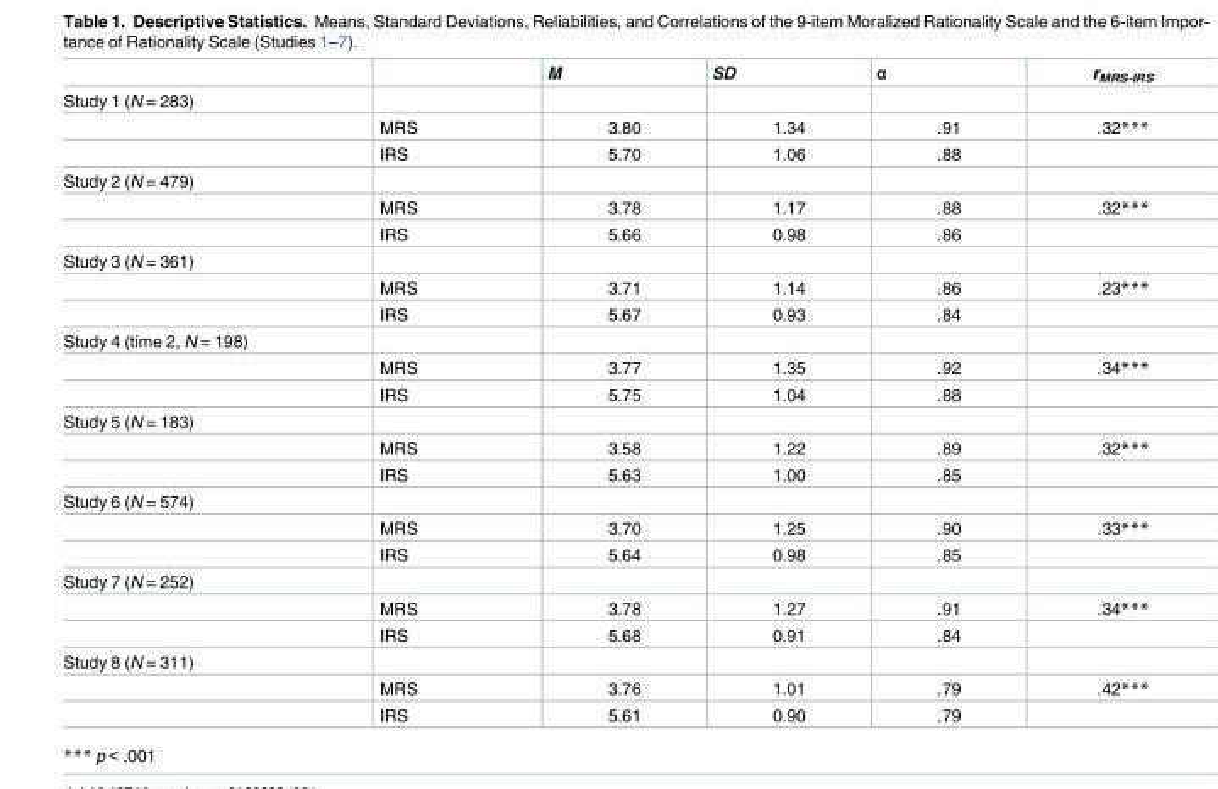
<table><thead><tr><td></td><td></td><td>M</td><td>SD</td><td>α</td><td>r<sub>MRS-IRS</sub></td></tr></thead><tbody><tr><td colspan="6">Study 1 (N = 283)</td></tr><tr><td></td><td>MRS</td><td>3.80</td><td>1.34</td><td>.91</td><td>.32***</td></tr><tr><td></td><td>IRS</td><td>5.70</td><td>1.06</td><td>.88</td><td></td></tr><tr><td colspan="6">Study 2 (N = 479)</td></tr><tr><td></td><td>MRS</td><td>3.78</td><td>1.17</td><td>.88</td><td>.32***</td></tr><tr><td></td><td>IRS</td><td>5.66</td><td>0.98</td><td>.86</td><td></td></tr><tr><td colspan="6">Study 3 (N = 361)</td></tr><tr><td></td><td>MRS</td><td>3.71</td><td>1.14</td><td>.86</td><td>.23***</td></tr><tr><td></td><td>IRS</td><td>5.67</td><td>0.93</td><td>.84</td><td></td></tr><tr><td colspan="6">Study 4 (time 2, N = 198)</td></tr><tr><td></td><td>MRS</td><td>3.77</td><td>1.35</td><td>.92</td><td>.34***</td></tr><tr><td></td><td>IRS</td><td>5.75</td><td>1.04</td><td>.88</td><td></td></tr><tr><td colspan="6">Study 5 (N = 183)</td></tr><tr><td></td><td>MRS</td><td>3.58</td><td>1.22</td><td>.89</td><td>.32***</td></tr><tr><td></td><td>IRS</td><td>5.63</td><td>1.00</td><td>.85</td><td></td></tr><tr><td colspan="6">Study 6 (N = 574)</td></tr><tr><td></td><td>MRS</td><td>3.70</td><td>1.25</td><td>.90</td><td>.33***</td></tr><tr><td></td><td>IRS</td><td>5.64</td><td>0.98</td><td>.85</td><td></td></tr><tr><td colspan="6">Study 7 (N = 252)</td></tr><tr><td></td><td>MRS</td><td>3.78</td><td>1.27</td><td>.91</td><td>.34***</td></tr><tr><td></td><td>IRS</td><td>5.68</td><td>0.91</td><td>.84</td><td></td></tr><tr><td colspan="6">Study 8 (N = 311)</td></tr><tr><td></td><td>MRS</td><td>3.76</td><td>1.01</td><td>.79</td><td>.42***</td></tr><tr><td></td><td>IRS</td><td>5.61</td><td>0.90</td><td>.79</td><td></td></tr></tbody></table>